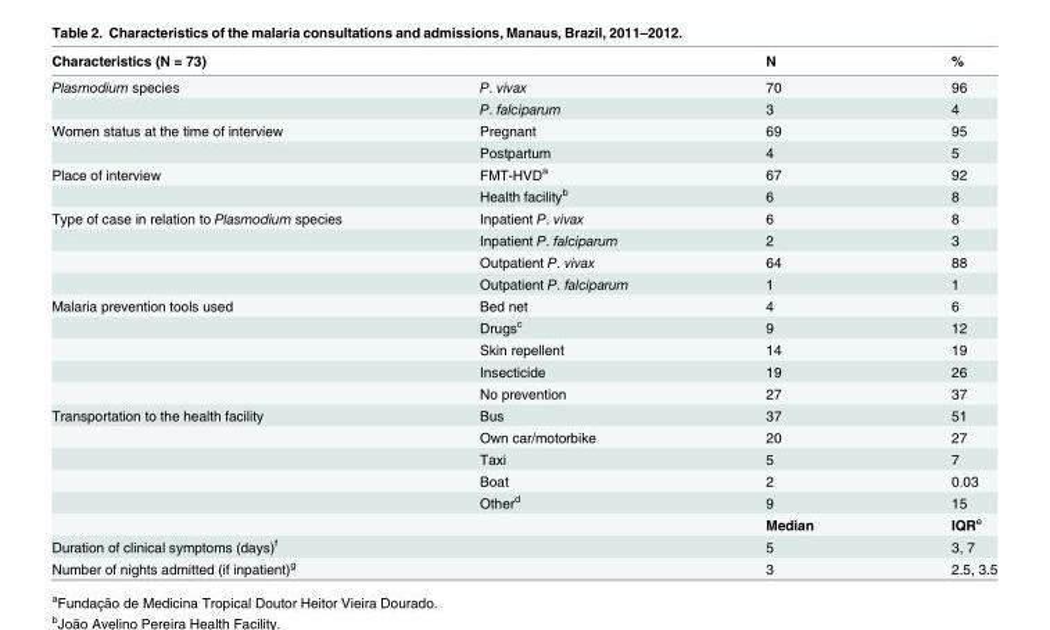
<table><thead><tr><td colspan="2">Characteristics (N = 73)</td><td rowspan="2">N 70</td><td rowspan="2">% 96</td></tr><tr><td>Plasmodium species</td><td>P. vivax</td></tr></thead><tbody><tr><td></td><td>P. falciparum</td><td>3</td><td>4</td></tr><tr><td rowspan="2">Women status at the time of interview</td><td>Pregnant</td><td>69</td><td>95</td></tr><tr><td>Postpartum</td><td>4</td><td>5</td></tr><tr><td rowspan="2">Place of interview</td><td>FMT-HVD<sup>a</sup></td><td>67</td><td>92</td></tr><tr><td>Health facility<sup>b</sup></td><td>6</td><td>8</td></tr><tr><td rowspan="4">Type of case in relation to Plasmodium species</td><td>Inpatient P. vivax</td><td>6</td><td>8</td></tr><tr><td>Inpatient P. falciparum</td><td>2</td><td>3</td></tr><tr><td>Outpatient P. vivax</td><td>64</td><td>88</td></tr><tr><td>Outpatient P. falciparum</td><td>1</td><td>1</td></tr><tr><td rowspan="5">Malaria prevention tools used</td><td>Bed net</td><td>4</td><td>6</td></tr><tr><td>Drugs<sup>c</sup></td><td>9</td><td>12</td></tr><tr><td>Skin repellent</td><td>14</td><td>19</td></tr><tr><td>Insecticide</td><td>19</td><td>26</td></tr><tr><td>No prevention</td><td>27</td><td>37</td></tr><tr><td rowspan="5">Transportation to the health facility</td><td>Bus</td><td>37</td><td>51</td></tr><tr><td>Own car/motorbike</td><td>20</td><td>27</td></tr><tr><td>Taxi</td><td>5</td><td>7</td></tr><tr><td>Boat</td><td>2</td><td>0.03</td></tr><tr><td>Other<sup>d</sup></td><td>9</td><td>15</td></tr><tr><td colspan="2"></td><td>Median</td><td>IQR<sup>e</sup></td></tr><tr><td colspan="2">Duration of clinical symptoms (days)<sup>f</sup></td><td>5</td><td>3, 7</td></tr><tr><td colspan="2">Number of nights admitted (if inpatient)<sup>g</sup></td><td>3</td><td>2.5, 3.5</td></tr></tbody></table>